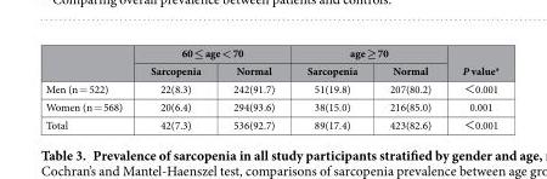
<table><thead><tr><td rowspan="2"></td><td colspan="2">60 ≤ age &lt; 70</td><td colspan="2">age ≥ 70</td><td rowspan="2">P value*</td></tr><tr><td>Sarcopenia</td><td>Normal</td><td>Sarcopenia</td><td>Normal</td></tr></thead><tbody><tr><td>Men (n = 522)</td><td>22(8.3)</td><td>242(91.7)</td><td>51(19.8)</td><td>207(80.2)</td><td>＜ 0.001</td></tr><tr><td>Women (n = 568)</td><td>20(6.4)</td><td>294(93.6)</td><td>38(15.0)</td><td>216(85.0)</td><td>0.001</td></tr><tr><td>Total</td><td>42(7.3)</td><td>536(92.7)</td><td>89(17.4)</td><td>423(82.6)</td><td>＜ 0.001</td></tr></tbody></table>